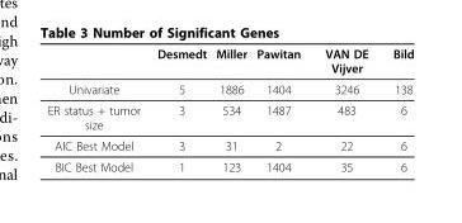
<table><thead><tr><td></td><td>Desmedt</td><td>Miller</td><td>Pawitan</td><td>VAN DE Vijver</td><td>Bild</td></tr></thead><tbody><tr><td>Univariate</td><td>5</td><td>1886</td><td>1404</td><td>3246</td><td>138</td></tr><tr><td>ER status + tumor size</td><td>3</td><td>534</td><td>1487</td><td>483</td><td>6</td></tr><tr><td>AIC Best Model</td><td>3</td><td>31</td><td>2</td><td>22</td><td>6</td></tr><tr><td>BIC Best Model</td><td>1</td><td>123</td><td>1404</td><td>35</td><td>6</td></tr></tbody></table>